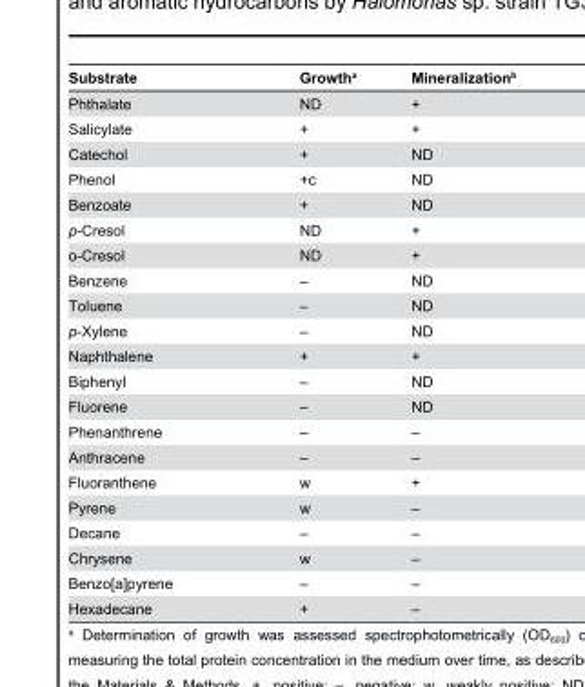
<table><thead><tr><td>Substrate</td><td>Growth<sup>a</sup></td><td>Mineralization<sup>b</sup></td></tr></thead><tbody><tr><td>Phthalate</td><td>ND</td><td>+</td></tr><tr><td>Salicylate</td><td>+</td><td>+</td></tr><tr><td>Catechol</td><td>+</td><td>ND</td></tr><tr><td>Phenol</td><td>+c</td><td>ND</td></tr><tr><td>Benzoate</td><td>+</td><td>ND</td></tr><tr><td>p-Cresol</td><td>ND</td><td>+</td></tr><tr><td>o-Cresol</td><td>ND</td><td>+</td></tr><tr><td>Benzene</td><td>–</td><td>ND</td></tr><tr><td>Toluene</td><td>–</td><td>ND</td></tr><tr><td>p-Xylene</td><td>–</td><td>ND</td></tr><tr><td>Naphthalene</td><td>+</td><td>+</td></tr><tr><td>Biphenyl</td><td>–</td><td>ND</td></tr><tr><td>Fluorene</td><td>–</td><td>ND</td></tr><tr><td>Phenanthrene</td><td>–</td><td>–</td></tr><tr><td>Anthracene</td><td>–</td><td>–</td></tr><tr><td>Fluoranthene</td><td>w</td><td>+</td></tr><tr><td>Pyrene</td><td>w</td><td>–</td></tr><tr><td>Decane</td><td>–</td><td>–</td></tr><tr><td>Chrysene</td><td>w</td><td>–</td></tr><tr><td>Benzo[a]pyrene</td><td>–</td><td>–</td></tr><tr><td>Hexadecane</td><td>+</td><td>–</td></tr></tbody></table>